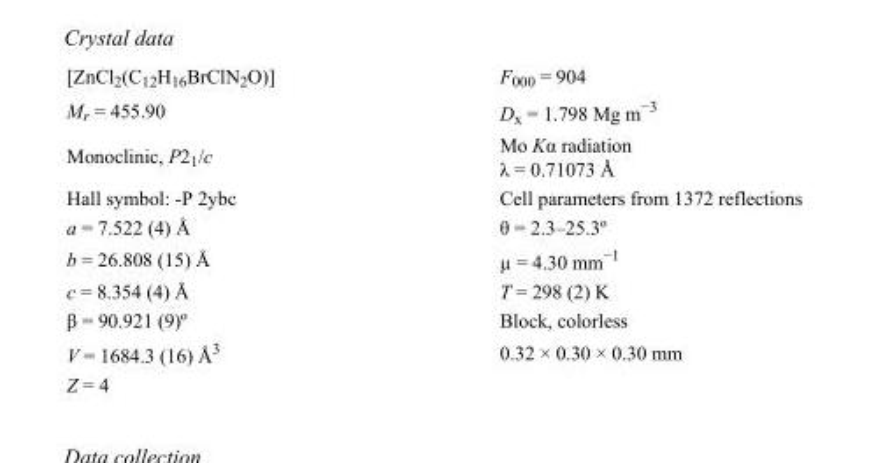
<table><tbody><tr><td>[ZnCl<sub>2</sub>(C<sub>12</sub>H<sub>16</sub>BrClN<sub>2</sub>O)]</td><td>F<sub>000</sub> = 904</td></tr><tr><td>M<sub>r</sub> = 455.90</td><td>D<sub>x</sub> = 1.798 Mg m<sup>−3</sup></td></tr><tr><td>Monoclinic, P2<sub>1</sub>/c</td><td>Mo Kα radiation λ = 0.71073 Å</td></tr><tr><td>Hall symbol: -P 2ybc</td><td>Cell parameters from 1372 reflections</td></tr><tr><td>a = 7.522 (4) Å</td><td>θ = 2.3–25.3º</td></tr><tr><td>b = 26.808 (15) Å</td><td>µ = 4.30 mm<sup>−1</sup></td></tr><tr><td>c = 8.354 (4) Å</td><td>T = 298 (2) K</td></tr><tr><td>β = 90.921 (9)º</td><td>Block, colorless</td></tr><tr><td>V = 1684.3 (16) Å<sup>3</sup></td><td>0.32 × 0.30 × 0.30 mm</td></tr><tr><td>Z = 4</td><td></td></tr></tbody></table>